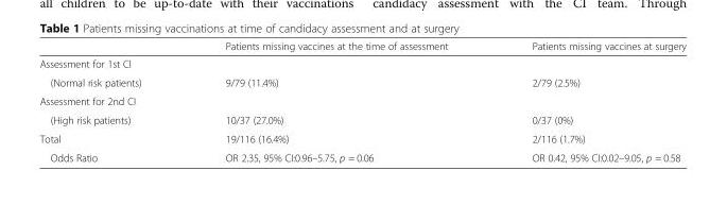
<table><thead><tr><td></td><td>Patients missing vaccines at the time of assessment</td><td>Patients missing vaccines at surgery</td></tr></thead><tbody><tr><td colspan="3">Assessment for 1st CI</td></tr><tr><td>(Normal risk patients)</td><td>9/79 (11.4%)</td><td>2/79 (2.5%)</td></tr><tr><td colspan="3">Assessment for 2nd CI</td></tr><tr><td>(High risk patients)</td><td>10/37 (27.0%)</td><td>0/37 (0%)</td></tr><tr><td>Total</td><td>19/116 (16.4%)</td><td>2/116 (1.7%)</td></tr><tr><td>Odds Ratio</td><td>OR 2.35, 95% CI:0.96–5.75, p = 0.06</td><td>OR 0.42, 95% CI:0.02–9.05, p = 0.58</td></tr></tbody></table>